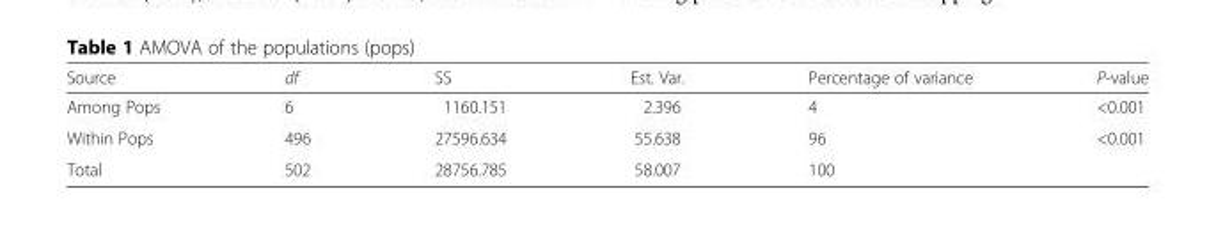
<table><thead><tr><td>Source</td><td>df</td><td>SS</td><td>Est. Var.</td><td>Percentage of variance</td><td>P-value</td></tr></thead><tbody><tr><td>Among Pops</td><td>6</td><td>1160.151</td><td>2.396</td><td>4</td><td>&lt;0.001</td></tr><tr><td>Within Pops</td><td>496</td><td>27596.634</td><td>55.638</td><td>96</td><td>&lt;0.001</td></tr><tr><td>Total</td><td>502</td><td>28756.785</td><td>58.007</td><td>100</td><td></td></tr></tbody></table>